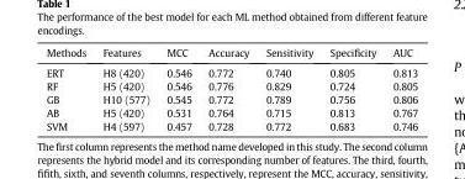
<table><thead><tr><td>Methods</td><td>Features</td><td>MCC</td><td>Accuracy</td><td>Sensitivity</td><td>Specificity</td><td>AUC</td></tr></thead><tbody><tr><td>ERT</td><td>H8 (420)</td><td>0.546</td><td>0.772</td><td>0.740</td><td>0.805</td><td>0.813</td></tr><tr><td>RF</td><td>H5 (420)</td><td>0.546</td><td>0.776</td><td>0.829</td><td>0.724</td><td>0.805</td></tr><tr><td>GB</td><td>H10 (577)</td><td>0.545</td><td>0.772</td><td>0.789</td><td>0.756</td><td>0.806</td></tr><tr><td>AB</td><td>H5 (420)</td><td>0.531</td><td>0.764</td><td>0.715</td><td>0.813</td><td>0.767</td></tr><tr><td>SVM</td><td>H4 (597)</td><td>0.457</td><td>0.728</td><td>0.772</td><td>0.683</td><td>0.746</td></tr></tbody></table>